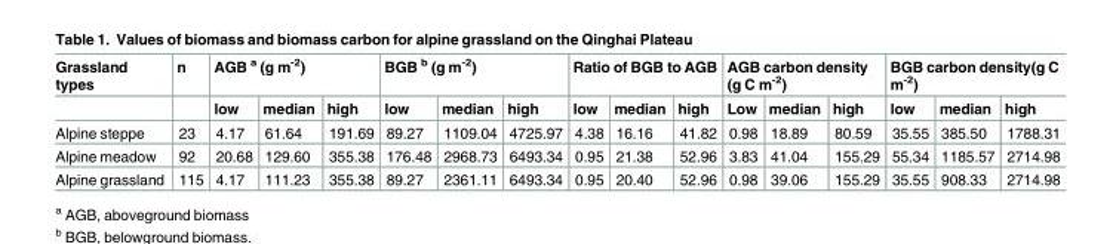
<table><thead><tr><td rowspan="2">Grassland types</td><td rowspan="2">n</td><td colspan="3">AGB <sup>a</sup> (g m<sup>-2</sup>)</td><td colspan="3">BGB <sup>b</sup> (g m<sup>-2</sup>)</td><td colspan="3">Ratio of BGB to AGB</td><td colspan="3">AGB carbon density (g C m<sup>-2</sup>)</td><td colspan="3">BGB carbon density(g C m<sup>-2</sup>)</td></tr><tr><td>low</td><td>median</td><td>high</td><td>low</td><td>median</td><td>high</td><td>low</td><td>median</td><td>high</td><td>Low</td><td>median</td><td>high</td><td>low</td><td>median</td><td>high</td></tr></thead><tbody><tr><td>Alpine steppe</td><td>23</td><td>4.17</td><td>61.64</td><td>191.69</td><td>89.27</td><td>1109.04</td><td>4725.97</td><td>4.38</td><td>16.16</td><td>41.82</td><td>0.98</td><td>18.89</td><td>80.59</td><td>35.55</td><td>385.50</td><td>1788.31</td></tr><tr><td>Alpine meadow</td><td>92</td><td>20.68</td><td>129.60</td><td>355.38</td><td>176.48</td><td>2968.73</td><td>6493.34</td><td>0.95</td><td>21.38</td><td>52.96</td><td>3.83</td><td>41.04</td><td>155.29</td><td>55.34</td><td>1185.57</td><td>2714.98</td></tr><tr><td>Alpine grassland</td><td>115</td><td>4.17</td><td>111.23</td><td>355.38</td><td>89.27</td><td>2361.11</td><td>6493.34</td><td>0.95</td><td>20.40</td><td>52.96</td><td>0.98</td><td>39.06</td><td>155.29</td><td>35.55</td><td>908.33</td><td>2714.98</td></tr></tbody></table>